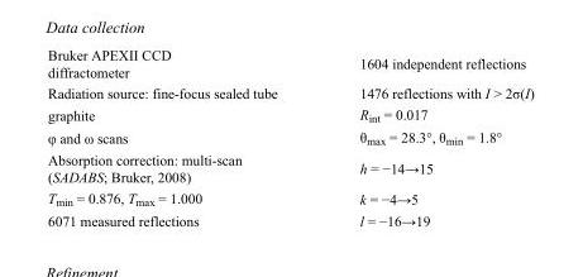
<table><tbody><tr><td>Bruker APEXII CCD diffractometer</td><td>1604 independent reflections</td></tr><tr><td>Radiation source: fine-focus sealed tube</td><td>1476 reflections with I &gt; 2σ(I)</td></tr><tr><td>graphite</td><td>R<sub>int</sub> = 0.017</td></tr><tr><td>φ and ω scans</td><td>θ<sub>max</sub> = 28.3°, θ<sub>min</sub> = 1.8°</td></tr><tr><td>Absorption correction: multi-scan (SADABS; Bruker, 2008)</td><td>h = −14→15</td></tr><tr><td>T<sub>min</sub> = 0.876, T<sub>max</sub> = 1.000</td><td>k = −4→5</td></tr><tr><td>6071 measured reflections</td><td>l = −16→19</td></tr></tbody></table>